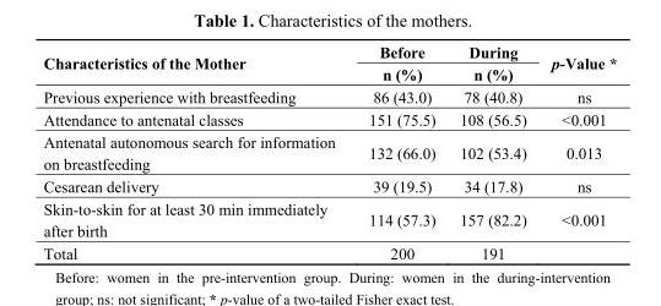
<table><thead><tr><td rowspan="2">Characteristics of the Mother</td><td rowspan="2">Before n (%)</td><td rowspan="2">During n (%)</td><td rowspan="2">p-Value *</td></tr><tr></tr></thead><tbody><tr><td>Previous experience with breastfeeding</td><td>86 (43.0)</td><td>78 (40.8)</td><td>ns</td></tr><tr><td>Attendance to antenatal classes</td><td>151 (75.5)</td><td>108 (56.5)</td><td>&lt;0.001</td></tr><tr><td>Antenatal autonomous search for information on breastfeeding</td><td>132 (66.0)</td><td>102 (53.4)</td><td>0.013</td></tr><tr><td>Cesarean delivery</td><td>39 (19.5)</td><td>34 (17.8)</td><td>ns</td></tr><tr><td>Skin-to-skin for at least 30 min immediately after birth</td><td>114 (57.3)</td><td>157 (82.2)</td><td>&lt;0.001</td></tr><tr><td>Total</td><td>200</td><td>191</td><td></td></tr></tbody></table>